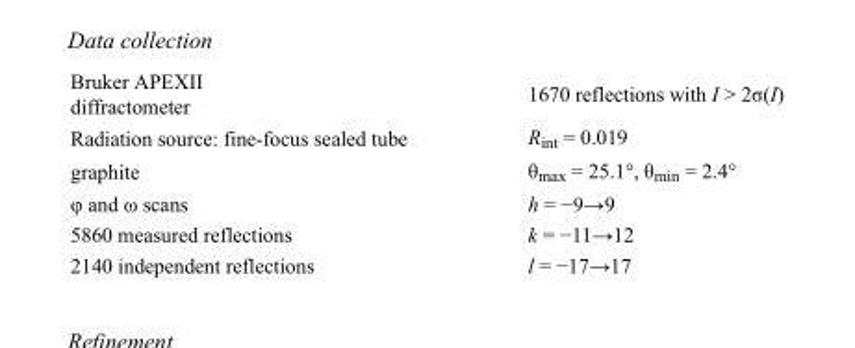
<table><tbody><tr><td>Bruker APEXII diffractometer</td><td>1670 reflections with I &gt; 2σ(I)</td></tr><tr><td>Radiation source: fine-focus sealed tube</td><td>R<sub>int</sub> = 0.019</td></tr><tr><td>graphite</td><td>θ<sub>max</sub> = 25.1°, θ<sub>min</sub> = 2.4°</td></tr><tr><td>φ and ω scans</td><td>h = −9→9</td></tr><tr><td>5860 measured reflections</td><td>k = −11→12</td></tr><tr><td>2140 independent reflections</td><td>l = −17→17</td></tr></tbody></table>